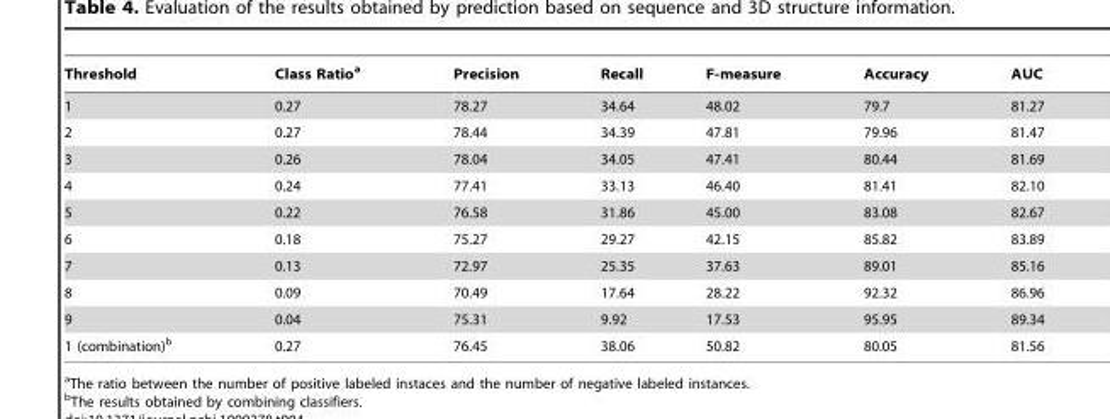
<table><thead><tr><td>Threshold</td><td>Class Ratio<sup>a</sup></td><td>Precision</td><td>Recall</td><td>F-measure</td><td>Accuracy</td><td>AUC</td></tr></thead><tbody><tr><td>1</td><td>0.27</td><td>78.27</td><td>34.64</td><td>48.02</td><td>79.7</td><td>81.27</td></tr><tr><td>2</td><td>0.27</td><td>78.44</td><td>34.39</td><td>47.81</td><td>79.96</td><td>81.47</td></tr><tr><td>3</td><td>0.26</td><td>78.04</td><td>34.05</td><td>47.41</td><td>80.44</td><td>81.69</td></tr><tr><td>4</td><td>0.24</td><td>77.41</td><td>33.13</td><td>46.40</td><td>81.41</td><td>82.10</td></tr><tr><td>5</td><td>0.22</td><td>76.58</td><td>31.86</td><td>45.00</td><td>83.08</td><td>82.67</td></tr><tr><td>6</td><td>0.18</td><td>75.27</td><td>29.27</td><td>42.15</td><td>85.82</td><td>83.89</td></tr><tr><td>7</td><td>0.13</td><td>72.97</td><td>25.35</td><td>37.63</td><td>89.01</td><td>85.16</td></tr><tr><td>8</td><td>0.09</td><td>70.49</td><td>17.64</td><td>28.22</td><td>92.32</td><td>86.96</td></tr><tr><td>9</td><td>0.04</td><td>75.31</td><td>9.92</td><td>17.53</td><td>95.95</td><td>89.34</td></tr><tr><td>1 (combination)<sup>b</sup></td><td>0.27</td><td>76.45</td><td>38.06</td><td>50.82</td><td>80.05</td><td>81.56</td></tr></tbody></table>